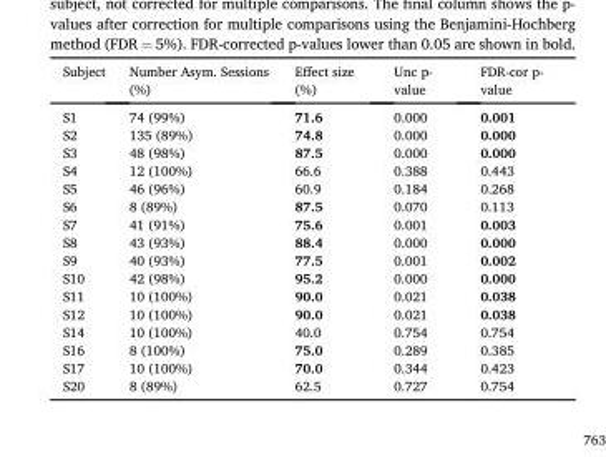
<table><thead><tr><td>Subject</td><td>Number Asym. Sessions (%)</td><td>Effect size (%)</td><td>Unc p- value</td><td>FDR-cor p- value</td></tr></thead><tbody><tr><td>S1</td><td>74 (99%)</td><td>71.6</td><td>0.000</td><td>0.001</td></tr><tr><td>S2</td><td>135 (89%)</td><td>74.8</td><td>0.000</td><td>0.000</td></tr><tr><td>S3</td><td>48 (98%)</td><td>87.5</td><td>0.000</td><td>0.000</td></tr><tr><td>S4</td><td>12 (100%)</td><td>66.6</td><td>0.388</td><td>0.443</td></tr><tr><td>S5</td><td>46 (96%)</td><td>60.9</td><td>0.184</td><td>0.268</td></tr><tr><td>S6</td><td>8 (89%)</td><td>87.5</td><td>0.070</td><td>0.113</td></tr><tr><td>S7</td><td>41 (91%)</td><td>75.6</td><td>0.001</td><td>0.003</td></tr><tr><td>S8</td><td>43 (93%)</td><td>88.4</td><td>0.000</td><td>0.000</td></tr><tr><td>S9</td><td>40 (93%)</td><td>77.5</td><td>0.001</td><td>0.002</td></tr><tr><td>S10</td><td>42 (98%)</td><td>95.2</td><td>0.000</td><td>0.000</td></tr><tr><td>S11</td><td>10 (100%)</td><td>90.0</td><td>0.021</td><td>0.038</td></tr><tr><td>S12</td><td>10 (100%)</td><td>90.0</td><td>0.021</td><td>0.038</td></tr><tr><td>S14</td><td>10 (100%)</td><td>40.0</td><td>0.754</td><td>0.754</td></tr><tr><td>S16</td><td>8 (100%)</td><td>75.0</td><td>0.289</td><td>0.385</td></tr><tr><td>S17</td><td>10 (100%)</td><td>70.0</td><td>0.344</td><td>0.423</td></tr><tr><td>S20</td><td>8 (89%)</td><td>62.5</td><td>0.727</td><td>0.754</td></tr></tbody></table>